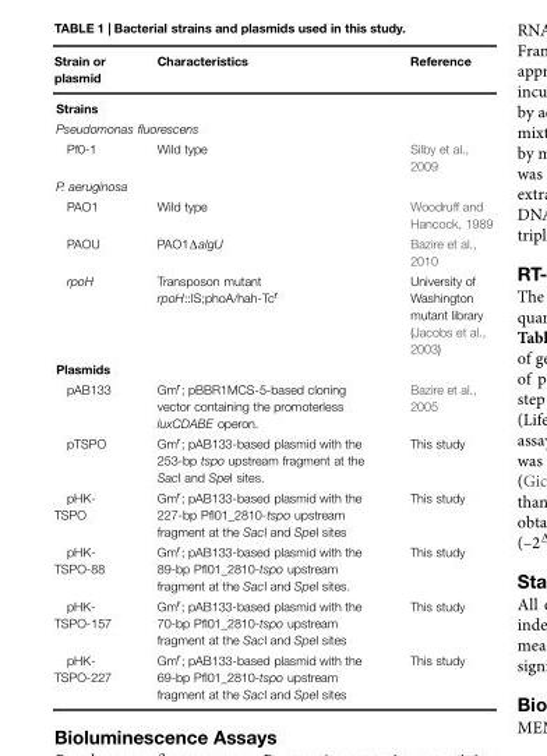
<table><thead><tr><td>Strain or plasmid</td><td>Characteristics</td><td>Reference</td></tr></thead><tbody><tr><td colspan="3">Strains</td></tr><tr><td colspan="3">Pseudomonas fluorescens</td></tr><tr><td>Pf0-1</td><td>Wild type</td><td>Silby et al., 2009</td></tr><tr><td colspan="3">P. aeruginosa</td></tr><tr><td>PAO1</td><td>Wild type</td><td>Woodruff and Hancock, 1989</td></tr><tr><td>PAOU</td><td>PAO1ΔalgU</td><td>Bazire et al., 2010</td></tr><tr><td>rpoH</td><td>Transposon mutant rpoH::IS;phoA/hah-Tc<sup>r</sup></td><td>University of Washington mutant library (Jacobs et al., 2003)</td></tr><tr><td colspan="3">Plasmids</td></tr><tr><td>pAB133</td><td>Gm<sup>r</sup>; pBBR1MCS-5-based cloning vector containing the promoterless luxCDABE operon.</td><td>Bazire et al., 2005</td></tr><tr><td>pTSPO</td><td>Gm<sup>r</sup>; pAB133-based plasmid with the 253-bp tspo upstream fragment at the SacI and SpeI sites.</td><td>This study</td></tr><tr><td>pHK- TSPO</td><td>Gm<sup>r</sup>; pAB133-based plasmid with the 227-bp Pfl01_2810-tspo upstream fragment at the SacI and SpeI sites</td><td>This study</td></tr><tr><td>pHK- TSPO-88</td><td>Gm<sup>r</sup>; pAB133-based plasmid with the 89-bp Pfl01_2810-tspo upstream fragment at the SacI and SpeI sites.</td><td>This study</td></tr><tr><td>pHK- TSPO-157</td><td>Gm<sup>r</sup>; pAB133-based plasmid with the 70-bp Pfl01_2810-tspo upstream fragment at the SacI and SpeI sites</td><td>This study</td></tr><tr><td>pHK- TSPO-227</td><td>Gm<sup>r</sup>; pAB133-based plasmid with the 69-bp Pfl01_2810-tspo upstream fragment at the SacI and SpeI sites</td><td>This study</td></tr></tbody></table>